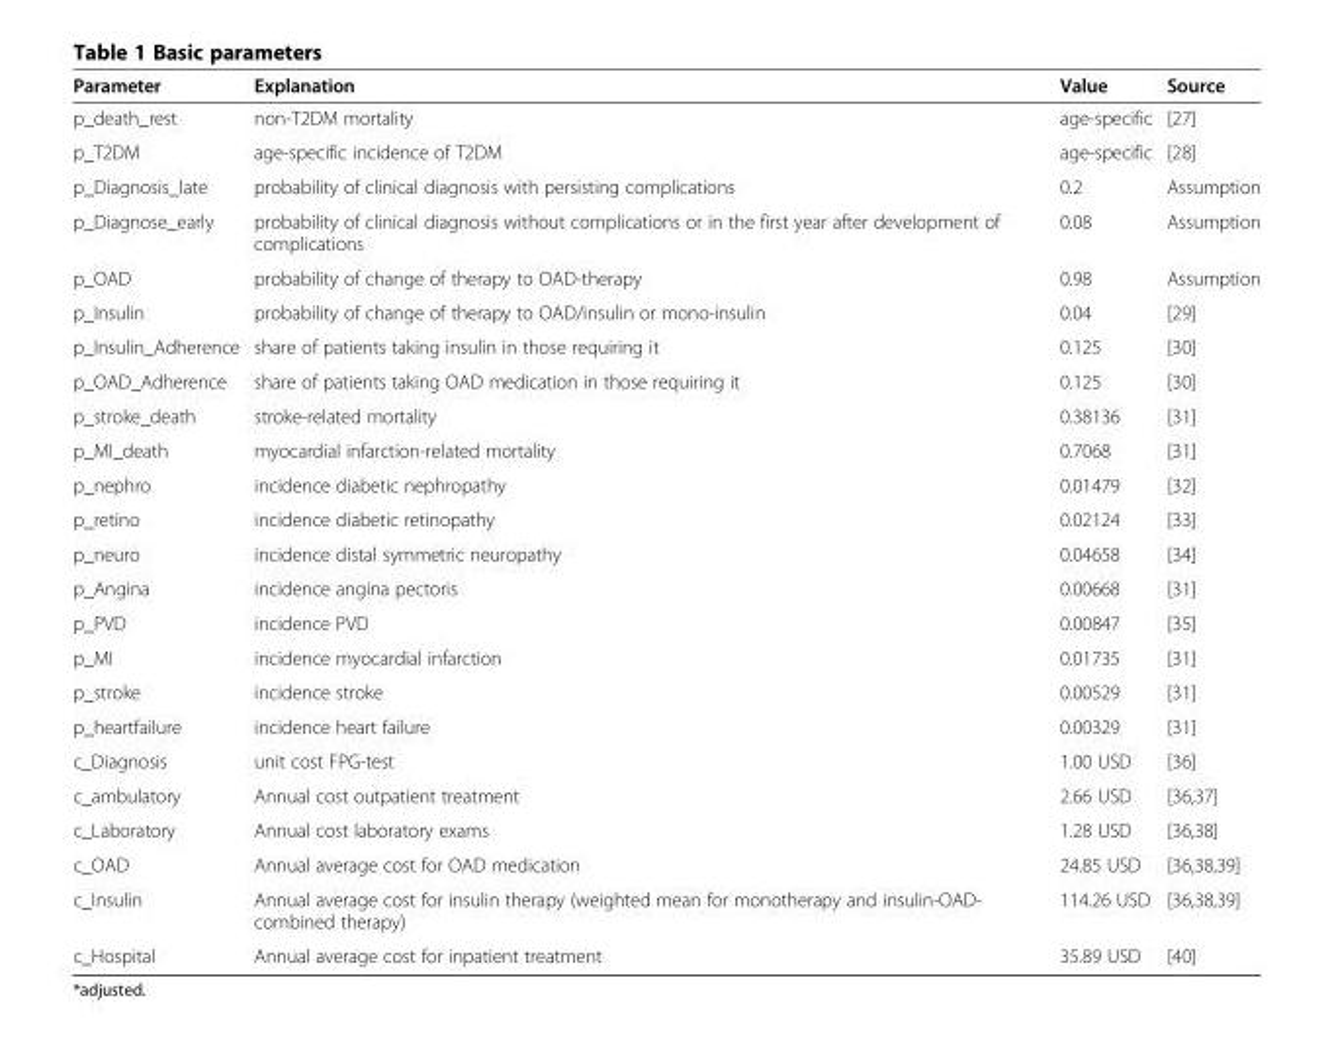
<table><thead><tr><td>Parameter</td><td>Explanation</td><td>Value</td><td>Source</td></tr></thead><tbody><tr><td>p_death_rest</td><td>non-T2DM mortality</td><td>age-specific</td><td>[27]</td></tr><tr><td>p_T2DM</td><td>age-specific incidence of T2DM</td><td>age-specific</td><td>[28]</td></tr><tr><td>p_Diagnosis_late</td><td>probability of clinical diagnosis with persisting complications</td><td>0.2</td><td>Assumption</td></tr><tr><td>p_Diagnose_early</td><td>probability of clinical diagnosis without complications or in the first year after development of complications</td><td>0.08</td><td>Assumption</td></tr><tr><td>p_OAD</td><td>probability of change of therapy to OAD-therapy</td><td>0.98</td><td>Assumption</td></tr><tr><td>p_Insulin</td><td>probability of change of therapy to OAD/insulin or mono-insulin</td><td>0.04</td><td>[29]</td></tr><tr><td>p_Insulin_Adherence</td><td>share of patients taking insulin in those requiring it</td><td>0.125</td><td>[30]</td></tr><tr><td>p_OAD_Adherence</td><td>share of patients taking OAD medication in those requiring it</td><td>0.125</td><td>[30]</td></tr><tr><td>p_stroke_death</td><td>stroke-related mortality</td><td>0.38136</td><td>[31]</td></tr><tr><td>p_MI_death</td><td>myocardial infarction-related mortality</td><td>0.7068</td><td>[31]</td></tr><tr><td>p_nephro</td><td>incidence diabetic nephropathy</td><td>0.01479</td><td>[32]</td></tr><tr><td>p_retino</td><td>incidence diabetic retinopathy</td><td>0.02124</td><td>[33]</td></tr><tr><td>p_neuro</td><td>incidence distal symmetric neuropathy</td><td>0.04658</td><td>[34]</td></tr><tr><td>p_Angina</td><td>incidence angina pectoris</td><td>0.00668</td><td>[31]</td></tr><tr><td>p_PVD</td><td>incidence PVD</td><td>0.00847</td><td>[35]</td></tr><tr><td>p_MI</td><td>incidence myocardial infarction</td><td>0.01735</td><td>[31]</td></tr><tr><td>p_stroke</td><td>incidence stroke</td><td>0.00529</td><td>[31]</td></tr><tr><td>p_heartfailure</td><td>incidence heart failure</td><td>0.00329</td><td>[31]</td></tr><tr><td>c_Diagnosis</td><td>unit cost FPG-test</td><td>1.00 USD</td><td>[36]</td></tr><tr><td>c_ambulatory</td><td>Annual cost outpatient treatment</td><td>2.66 USD</td><td>[36,37]</td></tr><tr><td>c_Laboratory</td><td>Annual cost laboratory exams</td><td>1.28 USD</td><td>[36,38]</td></tr><tr><td>c_OAD</td><td>Annual average cost for OAD medication</td><td>24.85 USD</td><td>[36,38,39]</td></tr><tr><td>c_Insulin</td><td>Annual average cost for insulin therapy (weighted mean for monotherapy and insulin-OAD- combined therapy)</td><td>114.26 USD</td><td>[36,38,39]</td></tr><tr><td>c_Hospital</td><td>Annual average cost for inpatient treatment</td><td>35.89 USD</td><td>[40]</td></tr></tbody></table>